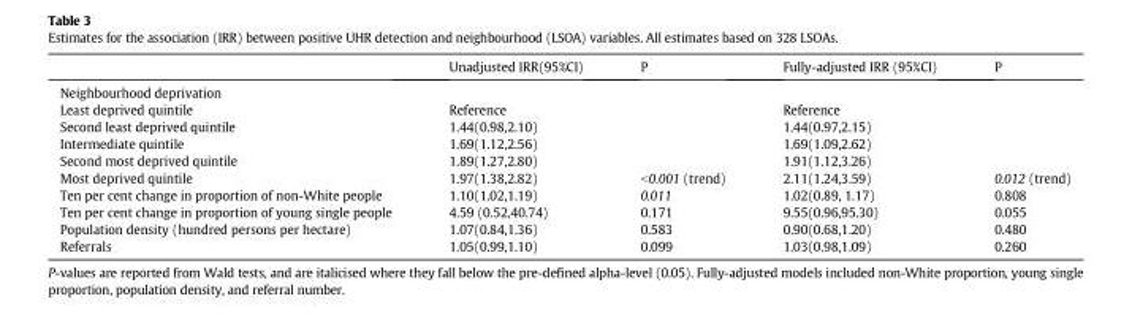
<table><thead><tr><td></td><td>Unadjusted IRR(95%CI)</td><td>P</td><td>Fully-adjusted IRR (95%CI)</td><td>P</td></tr></thead><tbody><tr><td colspan="5">Neighbourhood deprivation</td></tr><tr><td>Least deprived quintile</td><td>Reference</td><td></td><td>Reference</td><td></td></tr><tr><td>Second least deprived quintile</td><td>1.44(0.98,2.10)</td><td></td><td>1.44(0.97,2.15)</td><td></td></tr><tr><td>Intermediate quintile</td><td>1.69(1.12,2.56)</td><td></td><td>1.69(1.09,2.62)</td><td></td></tr><tr><td>Second most deprived quintile</td><td>1.89(1.27,2.80)</td><td></td><td>1.91(1.12,3.26)</td><td></td></tr><tr><td>Most deprived quintile</td><td>1.97(1.38,2.82)</td><td>&lt;0.001 (trend)</td><td>2.11(1.24,3.59)</td><td>0.012 (trend)</td></tr><tr><td>Ten per cent change in proportion of non-White people</td><td>1.10(1.02,1.19)</td><td>0.011</td><td>1.02(0.89, 1.17)</td><td>0.808</td></tr><tr><td>Ten per cent change in proportion of young single people</td><td>4.59 (0.52,40.74)</td><td>0.171</td><td>9.55(0.96,95.30)</td><td>0.055</td></tr><tr><td>Population density (hundred persons per hectare)</td><td>1.07(0.84,1.36)</td><td>0.583</td><td>0.90(0.68,1.20)</td><td>0.480</td></tr><tr><td>Referrals</td><td>1.05(0.99,1.10)</td><td>0.099</td><td>1.03(0.98,1.09)</td><td>0.260</td></tr></tbody></table>